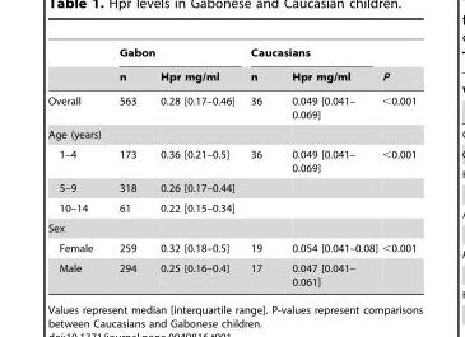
<table><thead><tr><td rowspan="2"></td><td colspan="2">Gabon</td><td colspan="2">Caucasians</td><td rowspan="2">P</td></tr><tr><td>n</td><td>Hpr mg/ml</td><td>n</td><td>Hpr mg/ml</td></tr></thead><tbody><tr><td>Overall</td><td>563</td><td>0.28 [0.17–0.46]</td><td>36</td><td>0.049 [0.041– 0.069]</td><td>&lt;0.001</td></tr><tr><td colspan="6">Age (years)</td></tr><tr><td>1–4</td><td>173</td><td>0.36 [0.21–0.5]</td><td>36</td><td>0.049 [0.041– 0.069]</td><td>&lt;0.001</td></tr><tr><td>5–9</td><td>318</td><td>0.26 [0.17–0.44]</td><td></td><td></td><td></td></tr><tr><td>10–14</td><td>61</td><td>0.22 [0.15–0.34]</td><td></td><td></td><td></td></tr><tr><td colspan="6">Sex</td></tr><tr><td>Female</td><td>259</td><td>0.32 [0.18–0.5]</td><td>19</td><td>0.054 [0.041–0.08]</td><td>&lt;0.001</td></tr><tr><td>Male</td><td>294</td><td>0.25 [0.16–0.4]</td><td>17</td><td>0.047 [0.041– 0.061]</td><td></td></tr></tbody></table>